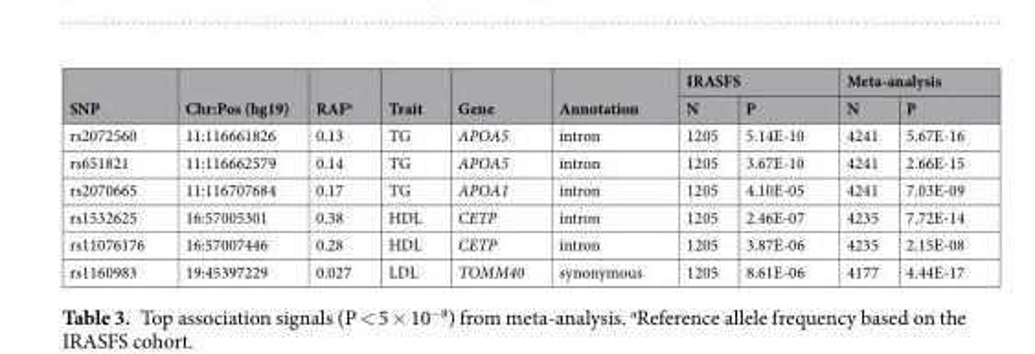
<table><thead><tr><td rowspan="2">SNP</td><td rowspan="2">Chr:Pos (hg19)</td><td rowspan="2">RAF<sup>a</sup></td><td rowspan="2">Trait</td><td rowspan="2">Gene</td><td rowspan="2">Annotation</td><td colspan="2">IRASFS</td><td colspan="2">Meta-analysis</td></tr><tr><td>N</td><td>P</td><td>N</td><td>P</td></tr></thead><tbody><tr><td>rs2072560</td><td>11:116661826</td><td>0.13</td><td>TG</td><td>APOA5</td><td>intron</td><td>1205</td><td>5.14E-10</td><td>4241</td><td>5.67E-16</td></tr><tr><td>rs651821</td><td>11:116662579</td><td>0.14</td><td>TG</td><td>APOA5</td><td>intron</td><td>1205</td><td>3.67E-10</td><td>4241</td><td>2.66E-15</td></tr><tr><td>rs2070665</td><td>11:116707684</td><td>0.17</td><td>TG</td><td>APOA1</td><td>intron</td><td>1205</td><td>4.10E-05</td><td>4241</td><td>7.03E-09</td></tr><tr><td>rs1532625</td><td>16:57005301</td><td>0.38</td><td>HDL</td><td>CETP</td><td>intron</td><td>1205</td><td>2.46E-07</td><td>4235</td><td>7.72E-14</td></tr><tr><td>rs11076176</td><td>16:57007446</td><td>0.28</td><td>HDL</td><td>CETP</td><td>intron</td><td>1205</td><td>3.87E-06</td><td>4235</td><td>2.15E-08</td></tr><tr><td>rs1160983</td><td>19:45397229</td><td>0.027</td><td>LDL</td><td>TOMM40</td><td>synonymous</td><td>1205</td><td>8.61E-06</td><td>4177</td><td>4.44E-17</td></tr></tbody></table>